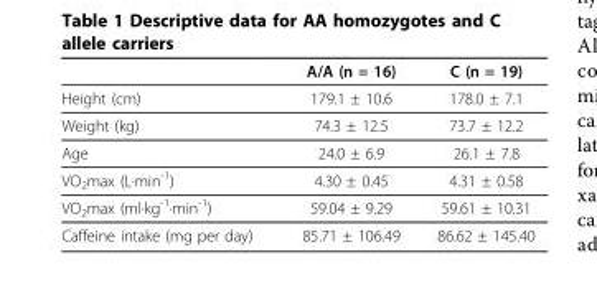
<table><thead><tr><td></td><td>A/A (n = 16)</td><td>C (n = 19)</td></tr></thead><tbody><tr><td>Height (cm)</td><td>179.1 ± 10.6</td><td>178.0 ± 7.1</td></tr><tr><td>Weight (kg)</td><td>74.3 ± 12.5</td><td>73.7 ± 12.2</td></tr><tr><td>Age</td><td>24.0 ± 6.9</td><td>26.1 ± 7.8</td></tr><tr><td>VO<sub>2</sub>max (L·min<sup>-1</sup>)</td><td>4.30 ± 0.45</td><td>4.31 ± 0.58</td></tr><tr><td>VO<sub>2</sub>max (ml·kg<sup>-1</sup>·min<sup>-1</sup>)</td><td>59.04 ± 9.29</td><td>59.61 ± 10.31</td></tr><tr><td>Caffeine intake (mg per day)</td><td>85.71 ± 106.49</td><td>86.62 ± 145.40</td></tr></tbody></table>